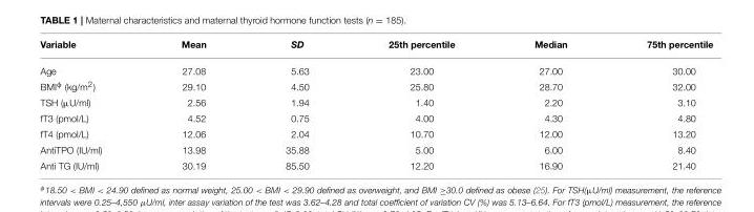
<table><thead><tr><td>Variable</td><td>Mean</td><td>SD</td><td>25th percentile</td><td>Median</td><td>75th percentile</td></tr></thead><tbody><tr><td>Age</td><td>27.08</td><td>5.63</td><td>23.00</td><td>27.00</td><td>30.00</td></tr><tr><td>BMI<sup>φ</sup> (kg/m<sup>2</sup>)</td><td>29.10</td><td>4.50</td><td>25.80</td><td>28.70</td><td>32.00</td></tr><tr><td>TSH (µU/ml)</td><td>2.56</td><td>1.94</td><td>1.40</td><td>2.20</td><td>3.10</td></tr><tr><td>fT3 (pmol/L)</td><td>4.52</td><td>0.75</td><td>4.00</td><td>4.30</td><td>4.80</td></tr><tr><td>fT4 (pmol/L)</td><td>12.06</td><td>2.04</td><td>10.70</td><td>12.00</td><td>13.20</td></tr><tr><td>AntiTPO (IU/ml)</td><td>13.98</td><td>35.88</td><td>5.00</td><td>6.00</td><td>8.40</td></tr><tr><td>Anti TG (IU/ml)</td><td>30.19</td><td>85.50</td><td>12.20</td><td>16.90</td><td>21.40</td></tr></tbody></table>